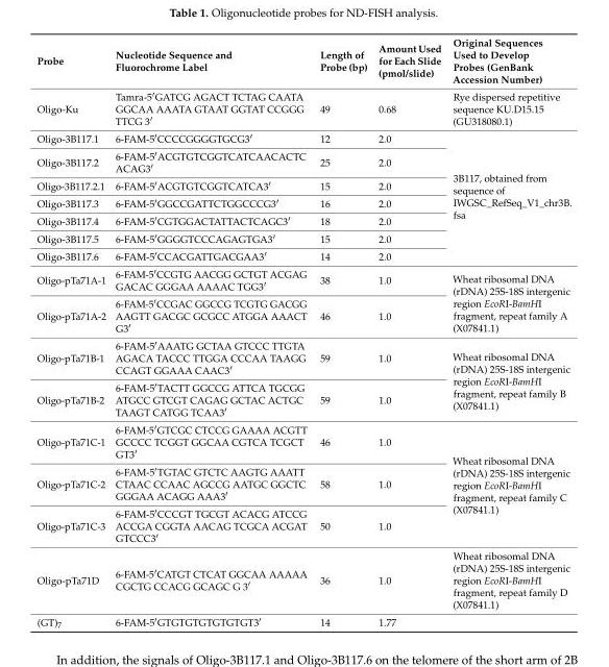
<table><thead><tr><td>Probe</td><td>Nucleotide Sequence and Fluorochrome Label</td><td>Length of Probe (bp)</td><td>Amount Used for Each Slide (pmol/slide)</td><td>Original Sequences Used to Develop Probes (GenBank Accession Number)</td></tr></thead><tbody><tr><td>Oligo-Ku</td><td>Tamra-5′GATCG AGACT TCTAG CAATA GGCAA AAATA GTAAT GGTAT CCGGG TTCG 3′</td><td>49</td><td>0.68</td><td>Rye dispersed repetitive sequence KU.D15.15 (GU318080.1)</td></tr><tr><td>Oligo-3B117.1</td><td>6-FAM-5′CCCCGGGGTGCG3′</td><td>12</td><td>2.0</td><td rowspan="7">3B117, obtained from sequence of IWGSC_RefSeq_V1_chr3B. fsa</td></tr><tr><td>Oligo-3B117.2</td><td>6-FAM-5′ACGTGTCGGTCATCAACACTC ACAG3′</td><td>25</td><td>2.0</td></tr><tr><td>Oligo-3B117.2.1</td><td>6-FAM-5′ACGTGTCGGTCATCA3′</td><td>15</td><td>2.0</td></tr><tr><td>Oligo-3B117.3</td><td>6-FAM-5′GGCCGATTCTGGCCCG3′</td><td>16</td><td>2.0</td></tr><tr><td>Oligo-3B117.4</td><td>6-FAM-5′CGTGGACTATTACTCAGC3′</td><td>18</td><td>2.0</td></tr><tr><td>Oligo-3B117.5</td><td>6-FAM-5′GGGGTCCCAGAGTGA3′</td><td>15</td><td>2.0</td></tr><tr><td>Oligo-3B117.6</td><td>6-FAM-5′CCACGATTGACGAA3′</td><td>14</td><td>2.0</td></tr><tr><td>Oligo-pTa71A-1</td><td>6-FAM-5′CCGTG AACGG GCTGT ACGAG GACAC GGGAA AAAAC TGG3′</td><td>38</td><td>1.0</td><td rowspan="2">Wheat ribosomal DNA (rDNA) 25S-18S intergenic region EcoRI-BamHI fragment, repeat family A (X07841.1)</td></tr><tr><td>Oligo-pTa71A-2</td><td>6-FAM-5′CCGAC GGCCG TCGTG GACGG AAGTT GACGC GCGCC ATGGA AAACT G3′</td><td>46</td><td>1.0</td></tr><tr><td>Oligo-pTa71B-1</td><td>6-FAM-5′AAATG GCTAA GTCCC TTGTA AGACA TACCC TTGGA CCCAA TAAGG CCAGT GGAAA CAAC3′</td><td>59</td><td>1.0</td><td rowspan="2">Wheat ribosomal DNA (rDNA) 25S-18S intergenic region EcoRI-BamHI fragment, repeat family B (X07841.1)</td></tr><tr><td>Oligo-pTa71B-2</td><td>6-FAM-5′TACTT GGCCG ATTCA TGCGG ATGCC GTCGT CAGAG GCTAC ACTGC TAAGT CATGG TCAA3′</td><td>59</td><td>1.0</td></tr><tr><td>Oligo-pTa71C-1</td><td>6-FAM-5′GTCGC CTCCG GAAAA ACGTT GCCCC TCGGT GGCAA CGTCA TCGCT GT3′</td><td>46</td><td>1.0</td><td rowspan="3">Wheat ribosomal DNA (rDNA) 25S-18S intergenic region EcoRI-BamHI fragment, repeat family C (X07841.1)</td></tr><tr><td>Oligo-pTa71C-2</td><td>6-FAM-5′TGTAC GTCTC AAGTG AAATT CTAAC CCAAC AGCCG AATGC GGCTC GGGAA ACAGG AAA3′</td><td>58</td><td>1.0</td></tr><tr><td>Oligo-pTa71C-3</td><td>6-FAM-5′CCCGT TGCGT ACACG ATCCG ACCGA CGGTA AACAG TCGCA ACGAT GTCCC3′</td><td>50</td><td>1.0</td></tr><tr><td>Oligo-pTa71D</td><td>6-FAM-5′CATGT CTCAT GGCAA AAAAA CGCTG CCACG GCAGC G 3′</td><td>36</td><td>1.0</td><td>Wheat ribosomal DNA (rDNA) 25S-18S intergenic region EcoRI-BamHI fragment, repeat family D (X07841.1)</td></tr><tr><td>(GT)<sub>7</sub></td><td>6-FAM-5′GTGTGTGTGTGTGT3′</td><td>14</td><td>1.77</td><td></td></tr></tbody></table>